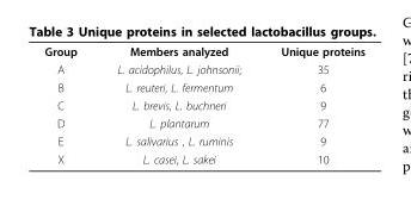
<table><tbody><tr><td>Group</td><td>Members analyzed</td><td>Unique proteins</td></tr><tr><td>A</td><td>L. acidophilus, L. johnsonii;</td><td>35</td></tr><tr><td>B</td><td>L. reuteri, L. fermentum</td><td>6</td></tr><tr><td>C</td><td>L. brevis, L. buchneri</td><td>9</td></tr><tr><td>D</td><td>L. plantarum</td><td>77</td></tr><tr><td>E</td><td>L. salivarius , L. ruminis</td><td>9</td></tr><tr><td>X</td><td>L. casei, L. sakei</td><td>10</td></tr></tbody></table>